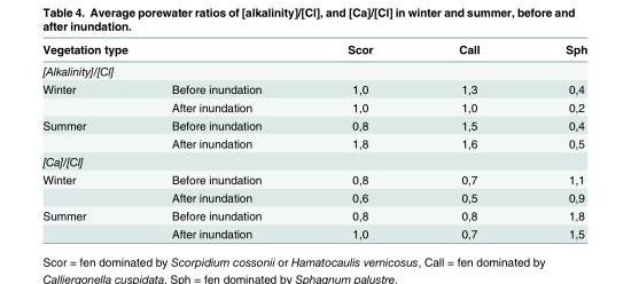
<table><thead><tr><td rowspan="2" colspan="2">Vegetation type [Alkalinity]/[Cl]</td><td rowspan="3">Scor 1,0</td><td rowspan="3">Call 1,3</td><td rowspan="3">Sph 0,4</td></tr><tr></tr><tr><td>Winter</td><td>Before inundation</td></tr></thead><tbody><tr><td></td><td>After inundation</td><td>1,0</td><td>1,0</td><td>0,2</td></tr><tr><td rowspan="2">Summer</td><td>Before inundation</td><td>0,8</td><td>1,5</td><td>0,4</td></tr><tr><td>After inundation</td><td>1,8</td><td>1,6</td><td>0,5</td></tr><tr><td colspan="5">[Ca]/[Cl]</td></tr><tr><td rowspan="2">Winter</td><td>Before inundation</td><td>0,8</td><td>0,7</td><td>1,1</td></tr><tr><td>After inundation</td><td>0,6</td><td>0,5</td><td>0,9</td></tr><tr><td rowspan="2">Summer</td><td>Before inundation</td><td>0,8</td><td>0,8</td><td>1,8</td></tr><tr><td>After inundation</td><td>1,0</td><td>0,7</td><td>1,5</td></tr></tbody></table>